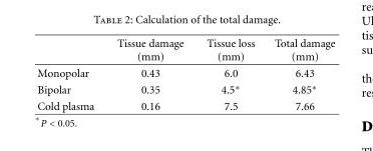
<table><thead><tr><td></td><td>Tissue damage (mm)</td><td>Tissue loss (mm)</td><td>Total damage (mm)</td></tr></thead><tbody><tr><td>Monopolar</td><td>0.43</td><td>6.0</td><td>6.43</td></tr><tr><td>Bipolar</td><td>0.35</td><td>4.5∗</td><td>4.85∗</td></tr><tr><td>Cold plasma</td><td>0.16</td><td>7.5</td><td>7.66</td></tr></tbody></table>